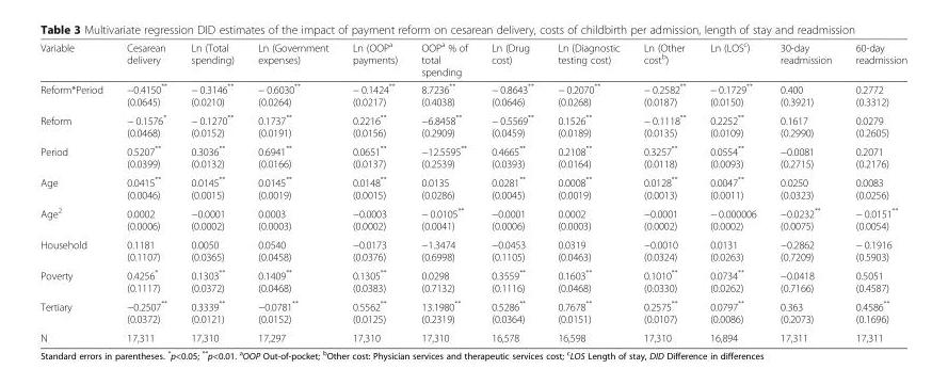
<table><thead><tr><td>Variable</td><td>Cesarean delivery</td><td>Ln (Total spending)</td><td>Ln (Government expenses)</td><td>Ln (OOP<sup>a</sup> payments)</td><td>OOP<sup>a</sup> % of total spending</td><td>Ln (Drug cost)</td><td>Ln (Diagnostic testing cost)</td><td>Ln (Other cost<sup>b</sup>)</td><td>Ln (LOS<sup>c</sup>)</td><td>30-day readmission</td><td>60-day readmission</td></tr></thead><tbody><tr><td>Reform*Period</td><td>−0.4150** (0.0645)</td><td>− 0.3146** (0.0210)</td><td>− 0.6030** (0.0264)</td><td>− 0.1424** (0.0217)</td><td>8.7236** (0.4038)</td><td>− 0.8643** (0.0646)</td><td>− 0.2070** (0.0268)</td><td>− 0.2582** (0.0187)</td><td>− 0.1729** (0.0150)</td><td>0.400 (0.3921)</td><td>0.2772 (0.3312)</td></tr><tr><td>Reform</td><td>− 0.1576* (0.0468)</td><td>− 0.1270** (0.0152)</td><td>0.1737** (0.0191)</td><td>0.2216** (0.0156)</td><td>−6.8458** (0.2909)</td><td>− 0.5569** (0.0459)</td><td>0.1526** (0.0189)</td><td>− 0.1118** (0.0135)</td><td>0.2252** (0.0109)</td><td>0.1617 (0.2990)</td><td>0.0279 (0.2605)</td></tr><tr><td>Period</td><td>0.5207** (0.0399)</td><td>0.3036** (0.0132)</td><td>0.6941** (0.0166)</td><td>0.0651** (0.0137)</td><td>−12.5595** (0.2539)</td><td>0.4665** (0.0393)</td><td>0.2108** (0.0164)</td><td>0.3257** (0.0118)</td><td>0.0554** (0.0093)</td><td>−0.0081 (0.2715)</td><td>0.2071 (0.2176)</td></tr><tr><td>Age</td><td>0.0415** (0.0046)</td><td>0.0145** (0.0015)</td><td>0.0145** (0.0019)</td><td>0.0148** (0.0015)</td><td>0.0135 (0.0286)</td><td>0.0281** (0.0045)</td><td>0.0008** (0.0019)</td><td>0.0128** (0.0013)</td><td>0.0047** (0.0011)</td><td>0.0250 (0.0323)</td><td>0.0083 (0.0256)</td></tr><tr><td>Age<sup>2</sup></td><td>0.0002 (0.0006)</td><td>−0.0001 (0.0002)</td><td>0.0003 (0.0003)</td><td>−0.0003 (0.0002)</td><td>− 0.0105** (0.0041)</td><td>−0.0001 (0.0006)</td><td>0.0002 (0.0003)</td><td>−0.0001 (0.0002)</td><td>− 0.000006 (0.0002)</td><td>−0.0232** (0.0075)</td><td>− 0.0151** (0.0054)</td></tr><tr><td>Household</td><td>0.1181 (0.1107)</td><td>0.0050 (0.0365)</td><td>0.0540 (0.0458)</td><td>−0.0173 (0.0376)</td><td>−1.3474 (0.6998)</td><td>−0.0453 (0.1105)</td><td>0.0319 (0.0463)</td><td>−0.0010 (0.0324)</td><td>0.0131 (0.0263)</td><td>−0.2862 (0.7209)</td><td>− 0.1916 (0.5903)</td></tr><tr><td>Poverty</td><td>0.4256* (0.1117)</td><td>0.1303** (0.0372)</td><td>0.1409** (0.0468)</td><td>0.1305** (0.0383)</td><td>0.0298 (0.7132)</td><td>0.3559** (0.1116)</td><td>0.1603** (0.0468)</td><td>0.1010** (0.0330)</td><td>0.0734** (0.0262)</td><td>−0.0418 (0.7166)</td><td>0.5051 (0.4587)</td></tr><tr><td>Tertiary</td><td>−0.2507** (0.0372)</td><td>0.3339** (0.0121)</td><td>−0.0781** (0.0152)</td><td>0.5562** (0.0125)</td><td>13.1980** (0.2319)</td><td>0.5286** (0.0364)</td><td>0.7678** (0.0151)</td><td>0.2575** (0.0107)</td><td>0.0797** (0.0086)</td><td>0.363 (0.2073)</td><td>0.4586** (0.1696)</td></tr><tr><td>N</td><td>17,311</td><td>17,310</td><td>17,297</td><td>17,310</td><td>17,310</td><td>16,578</td><td>16,598</td><td>17,310</td><td>16,894</td><td>17,311</td><td>17,311</td></tr></tbody></table>